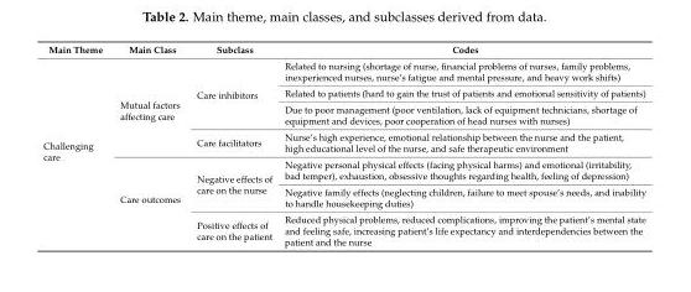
<table><thead><tr><td>Main Theme</td><td>Main Class</td><td>Subclass</td><td>Codes</td></tr></thead><tbody><tr><td rowspan="7">Challenging care</td><td rowspan="4">Mutual factors affecting care</td><td rowspan="3">Care inhibitors</td><td>Related to nursing (shortage of nurse, financial problems of nurses, family problems, inexperienced nurses, nurse’s fatigue and mental pressure, and heavy work shifts)</td></tr><tr><td>Related to patients (hard to gain the trust of patients and emotional sensitivity of patients)</td></tr><tr><td>Due to poor management (poor ventilation, lack of equipment technicians, shortage of equipment and devices, poor cooperation of head nurses with nurses)</td></tr><tr><td>Care facilitators</td><td>Nurse’s high experience, emotional relationship between the nurse and the patient, high educational level of the nurse, and safe therapeutic environment</td></tr><tr><td rowspan="3">Care outcomes</td><td rowspan="2">Negative effects of care on the nurse</td><td>Negative personal physical effects (facing physical harms) and emotional (irritability, bad temper), exhaustion, obsessive thoughts regarding health, feeling of depression)</td></tr><tr><td>Negative family effects (neglecting children, failure to meet spouse’s needs, and inability to handle housekeeping duties)</td></tr><tr><td>Positive effects of care on the patient</td><td>Reduced physical problems, reduced complications, improving the patient’s mental state and feeling safe, increasing patient’s life expectancy and interdependencies between the patient and the nurse</td></tr></tbody></table>